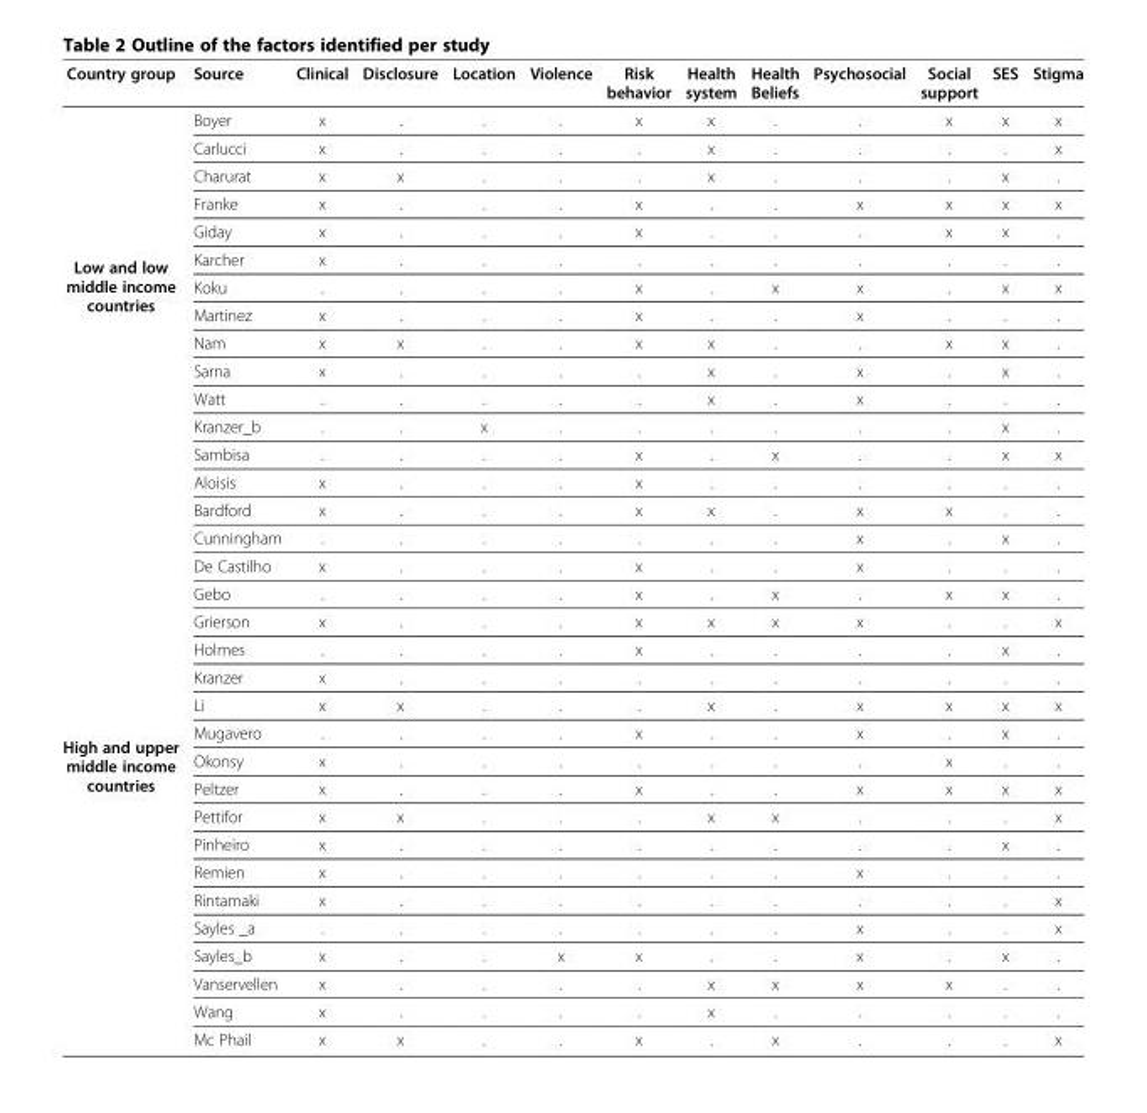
<table><thead><tr><td>Country group</td><td>Source</td><td>Clinical</td><td>Disclosure</td><td>Location</td><td>Violence</td><td>Risk behavior</td><td>Health system</td><td>Health Beliefs</td><td>Psychosocial</td><td>Social support</td><td>SES</td><td>Stigma</td></tr></thead><tbody><tr><td rowspan="13">Low and low middle income countries</td><td>Boyer</td><td>x</td><td>.</td><td>.</td><td>.</td><td>x</td><td>x</td><td>.</td><td>.</td><td>x</td><td>x</td><td>x</td></tr><tr><td>Carlucci</td><td>x</td><td>.</td><td>.</td><td>.</td><td>.</td><td>x</td><td>.</td><td>.</td><td>.</td><td>.</td><td>x</td></tr><tr><td>Charurat</td><td>x</td><td>x</td><td>.</td><td>.</td><td>.</td><td>x</td><td>.</td><td>.</td><td>.</td><td>x</td><td>.</td></tr><tr><td>Franke</td><td>x</td><td>.</td><td>.</td><td>.</td><td>x</td><td>.</td><td>.</td><td>x</td><td>x</td><td>x</td><td>x</td></tr><tr><td>Giday</td><td>x</td><td>.</td><td>.</td><td>.</td><td>x</td><td>.</td><td>.</td><td>.</td><td>x</td><td>x</td><td>.</td></tr><tr><td>Karcher</td><td>x</td><td>.</td><td>.</td><td>.</td><td>.</td><td>.</td><td>.</td><td>.</td><td>.</td><td>.</td><td>.</td></tr><tr><td>Koku</td><td>.</td><td>.</td><td>.</td><td>.</td><td>x</td><td>.</td><td>x</td><td>x</td><td>.</td><td>x</td><td>x</td></tr><tr><td>Martinez</td><td>x</td><td>.</td><td>.</td><td>.</td><td>x</td><td>.</td><td>.</td><td>x</td><td>.</td><td>.</td><td>.</td></tr><tr><td>Nam</td><td>x</td><td>x</td><td>.</td><td>.</td><td>x</td><td>x</td><td>.</td><td>.</td><td>x</td><td>x</td><td>.</td></tr><tr><td>Sarna</td><td>x</td><td>.</td><td>.</td><td>.</td><td>.</td><td>x</td><td>.</td><td>x</td><td>.</td><td>x</td><td>.</td></tr><tr><td>Watt</td><td>.</td><td>.</td><td>.</td><td>.</td><td>.</td><td>x</td><td>.</td><td>x</td><td>.</td><td>.</td><td>.</td></tr><tr><td>Kranzer_b</td><td>.</td><td>.</td><td>x</td><td>.</td><td>.</td><td>.</td><td>.</td><td>.</td><td>.</td><td>x</td><td>.</td></tr><tr><td>Sambisa</td><td>.</td><td>.</td><td>.</td><td>.</td><td>x</td><td>.</td><td>x</td><td>.</td><td>.</td><td>x</td><td>x</td></tr><tr><td rowspan="21">High and upper middle income countries</td><td>Aloisis</td><td>x</td><td>.</td><td>.</td><td>.</td><td>x</td><td>.</td><td>.</td><td>.</td><td>.</td><td>.</td><td>.</td></tr><tr><td>Bardford</td><td>x</td><td>.</td><td>.</td><td>.</td><td>x</td><td>x</td><td>.</td><td>x</td><td>x</td><td>.</td><td>.</td></tr><tr><td>Cunningham</td><td>.</td><td>.</td><td>.</td><td>.</td><td>.</td><td>.</td><td>.</td><td>x</td><td>.</td><td>x</td><td>.</td></tr><tr><td>De Castilho</td><td>x</td><td>.</td><td>.</td><td>.</td><td>x</td><td>.</td><td>.</td><td>x</td><td>.</td><td>.</td><td>.</td></tr><tr><td>Gebo</td><td>.</td><td>.</td><td>.</td><td>.</td><td>x</td><td>.</td><td>x</td><td>.</td><td>x</td><td>x</td><td>.</td></tr><tr><td>Grierson</td><td>x</td><td>.</td><td>.</td><td>.</td><td>x</td><td>x</td><td>x</td><td>x</td><td>.</td><td>.</td><td>x</td></tr><tr><td>Holmes</td><td>.</td><td>.</td><td>.</td><td>.</td><td>x</td><td>.</td><td>.</td><td>.</td><td>.</td><td>x</td><td>.</td></tr><tr><td>Kranzer</td><td>x</td><td>.</td><td>.</td><td>.</td><td>.</td><td>.</td><td>.</td><td>.</td><td>.</td><td>.</td><td>.</td></tr><tr><td>Li</td><td>x</td><td>x</td><td>.</td><td>.</td><td>.</td><td>x</td><td>.</td><td>x</td><td>x</td><td>x</td><td>x</td></tr><tr><td>Mugavero</td><td>.</td><td>.</td><td>.</td><td>.</td><td>x</td><td>.</td><td>.</td><td>x</td><td>.</td><td>x</td><td>.</td></tr><tr><td>Okonsy</td><td>x</td><td>.</td><td>.</td><td>.</td><td>.</td><td>.</td><td>.</td><td>.</td><td>x</td><td>.</td><td>.</td></tr><tr><td>Peltzer</td><td>x</td><td>.</td><td>.</td><td>.</td><td>x</td><td>.</td><td>.</td><td>x</td><td>x</td><td>x</td><td>x</td></tr><tr><td>Pettifor</td><td>x</td><td>x</td><td>.</td><td>.</td><td>.</td><td>x</td><td>x</td><td>.</td><td>.</td><td>.</td><td>x</td></tr><tr><td>Pinheiro</td><td>x</td><td>.</td><td>.</td><td>.</td><td>.</td><td>.</td><td>.</td><td>.</td><td>.</td><td>x</td><td>.</td></tr><tr><td>Remien</td><td>x</td><td>.</td><td>.</td><td>.</td><td>.</td><td>.</td><td>.</td><td>x</td><td>.</td><td>.</td><td>.</td></tr><tr><td>Rintamaki</td><td>x</td><td>.</td><td>.</td><td>.</td><td>.</td><td>.</td><td>.</td><td>.</td><td>.</td><td>.</td><td>x</td></tr><tr><td>Sayles _a</td><td>.</td><td>.</td><td>.</td><td>.</td><td>.</td><td>.</td><td>.</td><td>x</td><td>.</td><td>.</td><td>x</td></tr><tr><td>Sayles_b</td><td>x</td><td>.</td><td>.</td><td>x</td><td>x</td><td>.</td><td>.</td><td>x</td><td>.</td><td>x</td><td>.</td></tr><tr><td>Vanservellen</td><td>x</td><td>.</td><td>.</td><td>.</td><td>.</td><td>x</td><td>x</td><td>x</td><td>x</td><td>.</td><td>.</td></tr><tr><td>Wang</td><td>x</td><td>.</td><td>.</td><td>.</td><td>.</td><td>x</td><td>.</td><td>.</td><td>.</td><td>.</td><td>.</td></tr><tr><td>Mc Phail</td><td>x</td><td>x</td><td>.</td><td>.</td><td>x</td><td>.</td><td>x</td><td>.</td><td>.</td><td>.</td><td>x</td></tr></tbody></table>